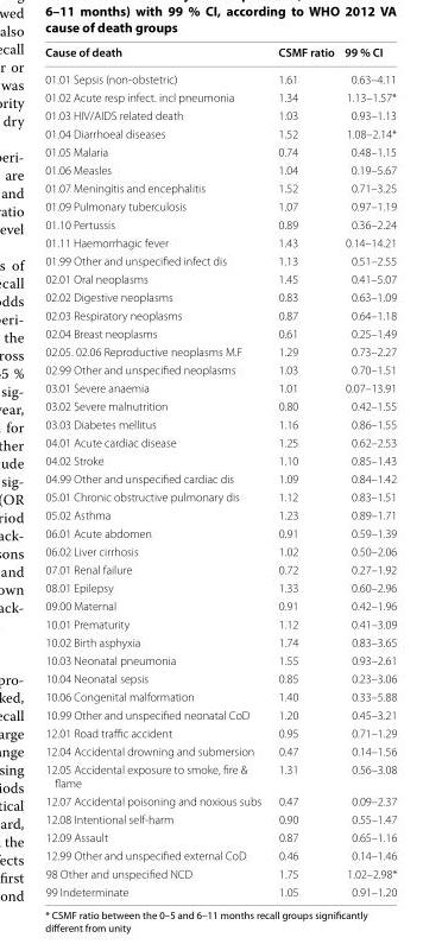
<table><thead><tr><td>Cause of death</td><td>CSMF ratio</td><td>99 % CI</td></tr></thead><tbody><tr><td>01.01 Sepsis (non‑obstetric)</td><td>1.61</td><td>0.63–4.11</td></tr><tr><td>01.02 Acute resp infect. incl pneumonia</td><td>1.34</td><td>1.13–1.57*</td></tr><tr><td>01.03 HIV/AIDS related death</td><td>1.03</td><td>0.93–1.13</td></tr><tr><td>01.04 Diarrhoeal diseases</td><td>1.52</td><td>1.08–2.14*</td></tr><tr><td>01.05 Malaria</td><td>0.74</td><td>0.48–1.15</td></tr><tr><td>01.06 Measles</td><td>1.04</td><td>0.19–5.67</td></tr><tr><td>01.07 Meningitis and encephalitis</td><td>1.52</td><td>0.71–3.25</td></tr><tr><td>01.09 Pulmonary tuberculosis</td><td>1.07</td><td>0.97–1.19</td></tr><tr><td>01.10 Pertussis</td><td>0.89</td><td>0.36–2.24</td></tr><tr><td>01.11 Haemorrhagic fever</td><td>1.43</td><td>0.14–14.21</td></tr><tr><td>01.99 Other and unspecified infect dis</td><td>1.13</td><td>0.51–2.55</td></tr><tr><td>02.01 Oral neoplasms</td><td>1.45</td><td>0.41–5.07</td></tr><tr><td>02.02 Digestive neoplasms</td><td>0.83</td><td>0.63–1.09</td></tr><tr><td>02.03 Respiratory neoplasms</td><td>0.87</td><td>0.64–1.18</td></tr><tr><td>02.04 Breast neoplasms</td><td>0.61</td><td>0.25–1.49</td></tr><tr><td>02.05. 02.06 Reproductive neoplasms M.F</td><td>1.29</td><td>0.73–2.27</td></tr><tr><td>02.99 Other and unspecified neoplasms</td><td>1.03</td><td>0.70–1.51</td></tr><tr><td>03.01 Severe anaemia</td><td>1.01</td><td>0.07–13.91</td></tr><tr><td>03.02 Severe malnutrition</td><td>0.80</td><td>0.42–1.55</td></tr><tr><td>03.03 Diabetes mellitus</td><td>1.16</td><td>0.86–1.55</td></tr><tr><td>04.01 Acute cardiac disease</td><td>1.25</td><td>0.62–2.53</td></tr><tr><td>04.02 Stroke</td><td>1.10</td><td>0.85–1.43</td></tr><tr><td>04.99 Other and unspecified cardiac dis</td><td>1.09</td><td>0.84–1.42</td></tr><tr><td>05.01 Chronic obstructive pulmonary dis</td><td>1.12</td><td>0.83–1.51</td></tr><tr><td>05.02 Asthma</td><td>1.23</td><td>0.89–1.71</td></tr><tr><td>06.01 Acute abdomen</td><td>0.91</td><td>0.59–1.39</td></tr><tr><td>06.02 Liver cirrhosis</td><td>1.02</td><td>0.50–2.06</td></tr><tr><td>07.01 Renal failure</td><td>0.72</td><td>0.27–1.92</td></tr><tr><td>08.01 Epilepsy</td><td>1.33</td><td>0.60–2.96</td></tr><tr><td>09.00 Maternal</td><td>0.91</td><td>0.42–1.96</td></tr><tr><td>10.01 Prematurity</td><td>1.12</td><td>0.41–3.09</td></tr><tr><td>10.02 Birth asphyxia</td><td>1.74</td><td>0.83–3.65</td></tr><tr><td>10.03 Neonatal pneumonia</td><td>1.55</td><td>0.93–2.61</td></tr><tr><td>10.04 Neonatal sepsis</td><td>0.85</td><td>0.23–3.06</td></tr><tr><td>10.06 Congenital malformation</td><td>1.40</td><td>0.33–5.88</td></tr><tr><td>10.99 Other and unspecified neonatal CoD</td><td>1.20</td><td>0.45–3.21</td></tr><tr><td>12.01 Road traffic accident</td><td>0.95</td><td>0.71–1.29</td></tr><tr><td>12.04 Accidental drowning and submersion</td><td>0.47</td><td>0.14–1.56</td></tr><tr><td>12.05 Accidental exposure to smoke, fire &amp; flame</td><td>1.31</td><td>0.56–3.08</td></tr><tr><td>12.07 Accidental poisoning and noxious subs</td><td>0.47</td><td>0.09–2.37</td></tr><tr><td>12.08 Intentional self‑harm</td><td>0.90</td><td>0.55–1.47</td></tr><tr><td>12.09 Assault</td><td>0.87</td><td>0.65–1.16</td></tr><tr><td>12.99 Other and unspecified external CoD</td><td>0.46</td><td>0.14–1.46</td></tr><tr><td>98 Other and unspecified NCD</td><td>1.75</td><td>1.02–2.98*</td></tr><tr><td>99 Indeterminate</td><td>1.05</td><td>0.91–1.20</td></tr></tbody></table>